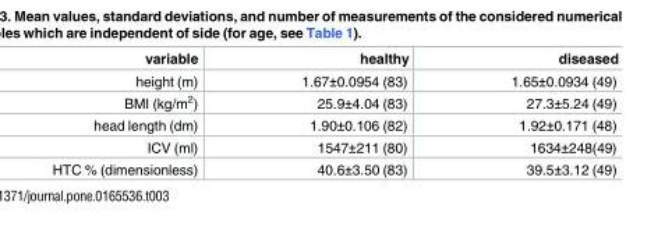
<table><thead><tr><td>variable</td><td>healthy</td><td>diseased</td></tr></thead><tbody><tr><td>height (m)</td><td>1.67±0.0954 (83)</td><td>1.65±0.0934 (49)</td></tr><tr><td>BMI (kg/m<sup>2</sup>)</td><td>25.9±4.04 (83)</td><td>27.3±5.24 (49)</td></tr><tr><td>head length (dm)</td><td>1.90±0.106 (82)</td><td>1.92±0.171 (48)</td></tr><tr><td>ICV (ml)</td><td>1547±211 (80)</td><td>1634±248(49)</td></tr><tr><td>HTC % (dimensionless)</td><td>40.6±3.50 (83)</td><td>39.5±3.12 (49)</td></tr></tbody></table>